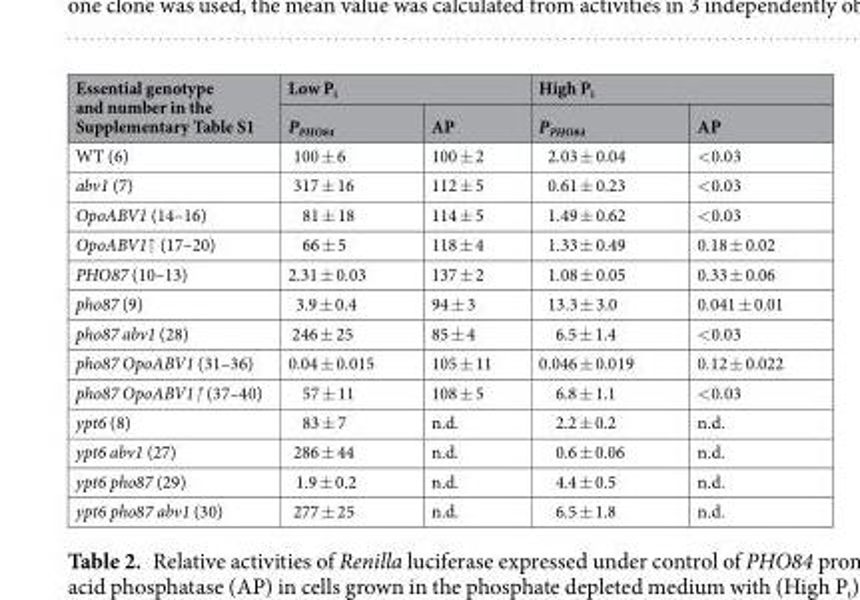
<table><thead><tr><td rowspan="2">Essential genotype and number in the Supplementary Table S1</td><td colspan="2">Low P<sub>i</sub></td><td colspan="2">High P<sub>i</sub></td></tr><tr><td>P<sub>PHO84</sub></td><td>AP</td><td>P<sub>PHO84</sub></td><td>AP</td></tr></thead><tbody><tr><td>WT (6)</td><td>100 ± 6</td><td>100 ± 2</td><td>2.03 ± 0.04</td><td>&lt;0.03</td></tr><tr><td>abv1 (7)</td><td>317 ± 16</td><td>112 ± 5</td><td>0.61 ± 0.23</td><td>&lt;0.03</td></tr><tr><td>OpoABV1 (14–16)</td><td>81 ± 18</td><td>114 ± 5</td><td>1.49 ± 0.62</td><td>&lt;0.03</td></tr><tr><td>OpoABV1↑ (17–20)</td><td>66 ± 5</td><td>118 ± 4</td><td>1.33 ± 0.49</td><td>0.18 ± 0.02</td></tr><tr><td>PHO87 (10–13)</td><td>2.31 ± 0.03</td><td>137 ± 2</td><td>1.08 ± 0.05</td><td>0.33 ± 0.06</td></tr><tr><td>pho87 (9)</td><td>3.9 ± 0.4</td><td>94 ± 3</td><td>13.3 ± 3.0</td><td>0.041 ± 0.01</td></tr><tr><td>pho87 abv1 (28)</td><td>246 ± 25</td><td>85 ± 4</td><td>6.5 ± 1.4</td><td>&lt;0.03</td></tr><tr><td>pho87 OpoABV1 (31–36)</td><td>0.04 ± 0.015</td><td>105 ± 11</td><td>0.046 ± 0.019</td><td>0.12 ± 0.022</td></tr><tr><td>pho87 OpoABV1↑ (37–40)</td><td>57 ± 11</td><td>108 ± 5</td><td>6.8 ± 1.1</td><td>&lt;0.03</td></tr><tr><td>ypt6 (8)</td><td>83 ± 7</td><td>n.d.</td><td>2.2 ± 0.2</td><td>n.d.</td></tr><tr><td>ypt6 abv1 (27)</td><td>286 ± 44</td><td>n.d.</td><td>0.6 ± 0.06</td><td>n.d.</td></tr><tr><td>ypt6 pho87 (29)</td><td>1.9 ± 0.2</td><td>n.d.</td><td>4.4 ± 0.5</td><td>n.d.</td></tr><tr><td>ypt6 pho87 abv1 (30)</td><td>277 ± 25</td><td>n.d.</td><td>6.5 ± 1.8</td><td>n.d.</td></tr></tbody></table>